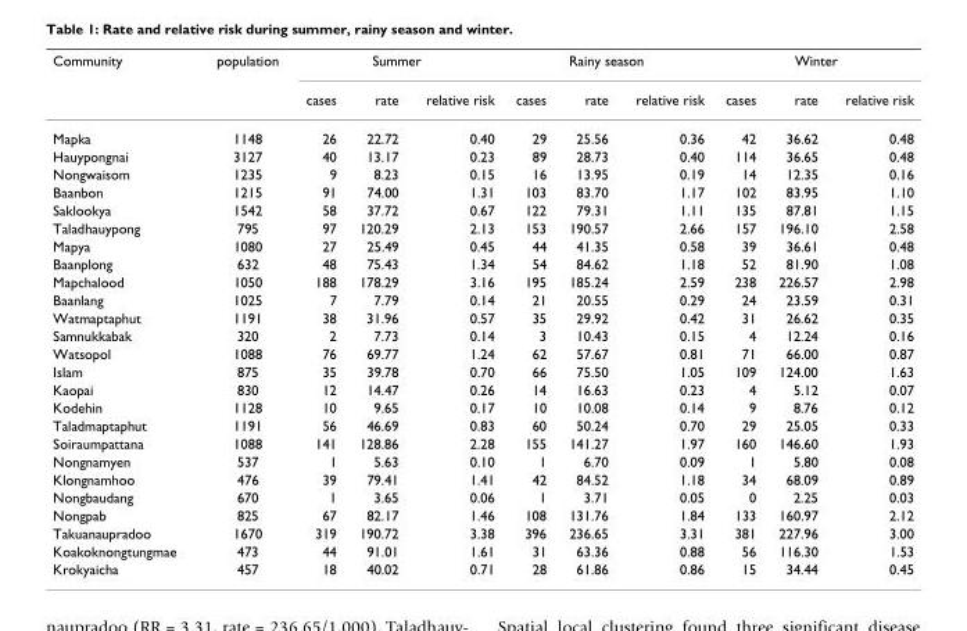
<table><thead><tr><td rowspan="2">Community</td><td rowspan="2">population</td><td colspan="3">Summer</td><td colspan="3">Rainy season</td><td colspan="3">Winter</td></tr><tr><td>cases</td><td>rate</td><td>relative risk</td><td>cases</td><td>rate</td><td>relative risk</td><td>cases</td><td>rate</td><td>relative risk</td></tr></thead><tbody><tr><td>Mapka</td><td>1148</td><td>26</td><td>22.72</td><td>0.40</td><td>29</td><td>25.56</td><td>0.36</td><td>42</td><td>36.62</td><td>0.48</td></tr><tr><td>Hauypongnai</td><td>3127</td><td>40</td><td>13.17</td><td>0.23</td><td>89</td><td>28.73</td><td>0.40</td><td>114</td><td>36.65</td><td>0.48</td></tr><tr><td>Nongwaisom</td><td>1235</td><td>9</td><td>8.23</td><td>0.15</td><td>16</td><td>13.95</td><td>0.19</td><td>14</td><td>12.35</td><td>0.16</td></tr><tr><td>Baanbon</td><td>1215</td><td>91</td><td>74.00</td><td>1.31</td><td>103</td><td>83.70</td><td>1.17</td><td>102</td><td>83.95</td><td>1.10</td></tr><tr><td>Saklookya</td><td>1542</td><td>58</td><td>37.72</td><td>0.67</td><td>122</td><td>79.31</td><td>1.11</td><td>135</td><td>87.81</td><td>1.15</td></tr><tr><td>Taladhauypong</td><td>795</td><td>97</td><td>120.29</td><td>2.13</td><td>153</td><td>190.57</td><td>2.66</td><td>157</td><td>196.10</td><td>2.58</td></tr><tr><td>Mapya</td><td>1080</td><td>27</td><td>25.49</td><td>0.45</td><td>44</td><td>41.35</td><td>0.58</td><td>39</td><td>36.61</td><td>0.48</td></tr><tr><td>Baanplong</td><td>632</td><td>48</td><td>75.43</td><td>1.34</td><td>54</td><td>84.62</td><td>1.18</td><td>52</td><td>81.90</td><td>1.08</td></tr><tr><td>Mapchalood</td><td>1050</td><td>188</td><td>178.29</td><td>3.16</td><td>195</td><td>185.24</td><td>2.59</td><td>238</td><td>226.57</td><td>2.98</td></tr><tr><td>Baanlang</td><td>1025</td><td>7</td><td>7.79</td><td>0.14</td><td>21</td><td>20.55</td><td>0.29</td><td>24</td><td>23.59</td><td>0.31</td></tr><tr><td>Watmaptaphut</td><td>1191</td><td>38</td><td>31.96</td><td>0.57</td><td>35</td><td>29.92</td><td>0.42</td><td>31</td><td>26.62</td><td>0.35</td></tr><tr><td>Samnukkabak</td><td>320</td><td>2</td><td>7.73</td><td>0.14</td><td>3</td><td>10.43</td><td>0.15</td><td>4</td><td>12.24</td><td>0.16</td></tr><tr><td>Watsopol</td><td>1088</td><td>76</td><td>69.77</td><td>1.24</td><td>62</td><td>57.67</td><td>0.81</td><td>71</td><td>66.00</td><td>0.87</td></tr><tr><td>Islam</td><td>875</td><td>35</td><td>39.78</td><td>0.70</td><td>66</td><td>75.50</td><td>1.05</td><td>109</td><td>124.00</td><td>1.63</td></tr><tr><td>Kaopai</td><td>830</td><td>12</td><td>14.47</td><td>0.26</td><td>14</td><td>16.63</td><td>0.23</td><td>4</td><td>5.12</td><td>0.07</td></tr><tr><td>Kodehin</td><td>1128</td><td>10</td><td>9.65</td><td>0.17</td><td>10</td><td>10.08</td><td>0.14</td><td>9</td><td>8.76</td><td>0.12</td></tr><tr><td>Taladmaptaphut</td><td>1191</td><td>56</td><td>46.69</td><td>0.83</td><td>60</td><td>50.24</td><td>0.70</td><td>29</td><td>25.05</td><td>0.33</td></tr><tr><td>Soiraumpattana</td><td>1088</td><td>141</td><td>128.86</td><td>2.28</td><td>155</td><td>141.27</td><td>1.97</td><td>160</td><td>146.60</td><td>1.93</td></tr><tr><td>Nongnamyen</td><td>537</td><td>1</td><td>5.63</td><td>0.10</td><td>1</td><td>6.70</td><td>0.09</td><td>1</td><td>5.80</td><td>0.08</td></tr><tr><td>Klongnamhoo</td><td>476</td><td>39</td><td>79.41</td><td>1.41</td><td>42</td><td>84.52</td><td>1.18</td><td>34</td><td>68.09</td><td>0.89</td></tr><tr><td>Nongbaudang</td><td>670</td><td>1</td><td>3.65</td><td>0.06</td><td>1</td><td>3.71</td><td>0.05</td><td>0</td><td>2.25</td><td>0.03</td></tr><tr><td>Nongpab</td><td>825</td><td>67</td><td>82.17</td><td>1.46</td><td>108</td><td>131.76</td><td>1.84</td><td>133</td><td>160.97</td><td>2.12</td></tr><tr><td>Takuanaupradoo</td><td>1670</td><td>319</td><td>190.72</td><td>3.38</td><td>396</td><td>236.65</td><td>3.31</td><td>381</td><td>227.96</td><td>3.00</td></tr><tr><td>Koakoknongtungmae</td><td>473</td><td>44</td><td>91.01</td><td>1.61</td><td>31</td><td>63.36</td><td>0.88</td><td>56</td><td>116.30</td><td>1.53</td></tr><tr><td>Krokyaicha</td><td>457</td><td>18</td><td>40.02</td><td>0.71</td><td>28</td><td>61.86</td><td>0.86</td><td>15</td><td>34.44</td><td>0.45</td></tr></tbody></table>